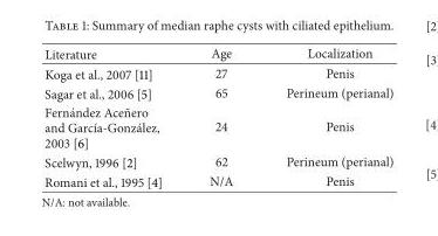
<table><thead><tr><td>Literature</td><td>Age</td><td>Localization</td></tr></thead><tbody><tr><td>Koga et al., 2007 [11]</td><td>27</td><td>Penis</td></tr><tr><td>Sagar et al., 2006 [5]</td><td>65</td><td>Perineum (perianal)</td></tr><tr><td>Fern´andez Ace˜nero and Garc´ıa-Gonz´alez, 2003 [6]</td><td>24</td><td>Penis</td></tr><tr><td>Scelwyn, 1996 [2]</td><td>62</td><td>Perineum (perianal)</td></tr><tr><td>Romani et al., 1995 [4]</td><td>N/A</td><td>Penis</td></tr></tbody></table>